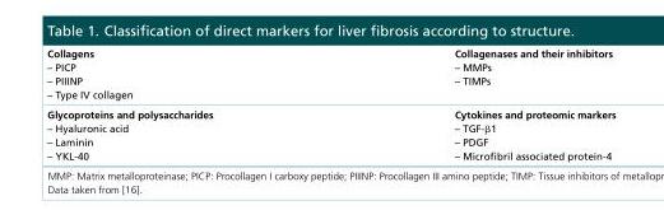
<table><tbody><tr><td>Collagens – PICP – PIIINP – Type IV collagen</td><td>Collagenases and their inhibitors – MMPs – TIMPs</td></tr><tr><td>Glycoproteins and polysaccharides – Hyaluronic acid – Laminin – YKL-40</td><td>Cytokines and proteomic markers – TGF-β1 – PDGF – Microfibril associated protein-4</td></tr></tbody></table>